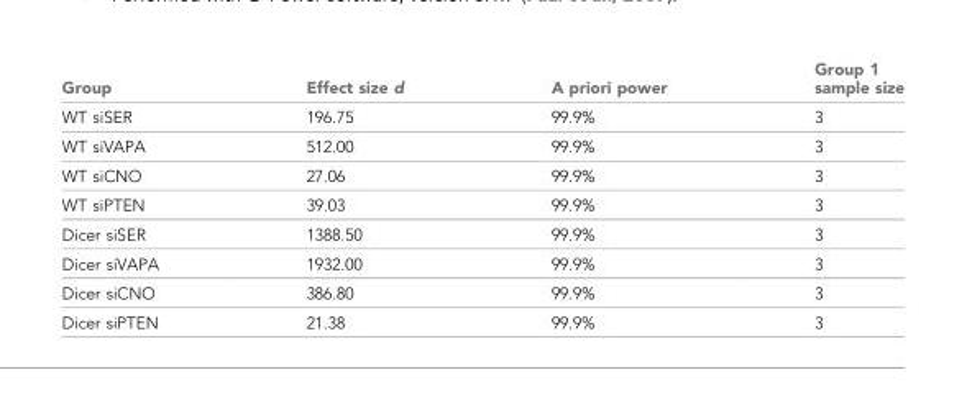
<table><thead><tr><td>Group</td><td>Effect size d</td><td>A priori power</td><td>Group 1 sample size</td></tr></thead><tbody><tr><td>WT siSER</td><td>196.75</td><td>99.9%</td><td>3</td></tr><tr><td>WT siVAPA</td><td>512.00</td><td>99.9%</td><td>3</td></tr><tr><td>WT siCNO</td><td>27.06</td><td>99.9%</td><td>3</td></tr><tr><td>WT siPTEN</td><td>39.03</td><td>99.9%</td><td>3</td></tr><tr><td>Dicer siSER</td><td>1388.50</td><td>99.9%</td><td>3</td></tr><tr><td>Dicer siVAPA</td><td>1932.00</td><td>99.9%</td><td>3</td></tr><tr><td>Dicer siCNO</td><td>386.80</td><td>99.9%</td><td>3</td></tr><tr><td>Dicer siPTEN</td><td>21.38</td><td>99.9%</td><td>3</td></tr></tbody></table>